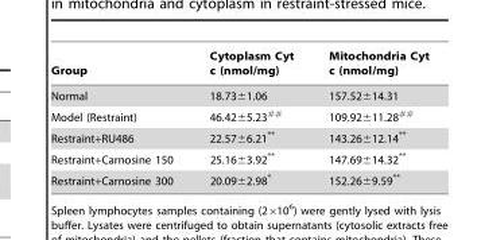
<table><thead><tr><td>Group</td><td>Cytoplasm Cyt c (nmol/mg)</td><td>Mitochondria Cyt c (nmol/mg)</td></tr></thead><tbody><tr><td>Normal</td><td>18.73±1.06</td><td>157.52±14.31</td></tr><tr><td>Model (Restraint)</td><td>46.42±5.23##</td><td>109.92±11.28##</td></tr><tr><td>Restraint+RU486</td><td>22.57±6.21**</td><td>143.26±12.14**</td></tr><tr><td>Restraint+Carnosine 150</td><td>25.16±3.92**</td><td>147.69±14.32**</td></tr><tr><td>Restraint+Carnosine 300</td><td>20.09±2.98*</td><td>152.26±9.59**</td></tr></tbody></table>